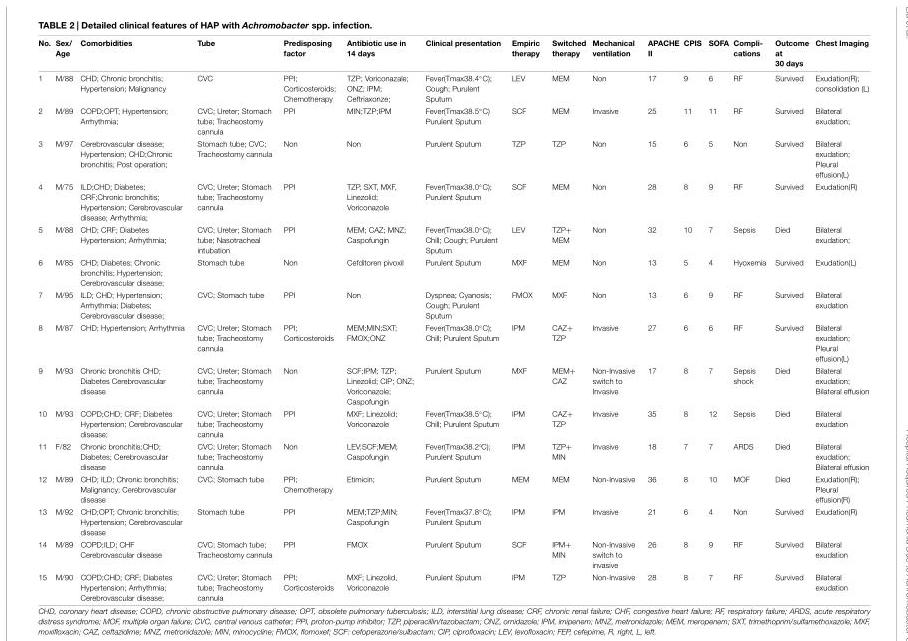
<table><thead><tr><td>No.</td><td>Sex/ Age</td><td>Comorbidities</td><td>Tube</td><td>Predisposing factor</td><td>Antibiotic use in 14 days</td><td>Clinical presentation</td><td>Empiric therapy</td><td>Switched therapy</td><td>Mechanical ventilation</td><td>APACHE II</td><td>CPIS</td><td>SOFA</td><td>Compli- cations</td><td>Outcome at 30 days</td><td>Chest Imaging</td></tr></thead><tbody><tr><td>1</td><td>M/88</td><td>CHD; Chronic bronchitis; Hypertension; Malignancy</td><td>CVC</td><td>PPI; Corticosteroids; Chemotherapy</td><td>TZP; Voriconazale; ONZ; IPM; Ceftriaxonze;</td><td>Fever(Tmax38.4◦C); Cough; Purulent Sputum</td><td>LEV</td><td>MEM</td><td>Non</td><td>17</td><td>9</td><td>6</td><td>RF</td><td>Survived</td><td>Exudation(R); consolidation (L)</td></tr><tr><td>2</td><td>M/89</td><td>COPD;OPT; Hypertension; Arrhythmia;</td><td>CVC; Ureter; Stomach tube; Tracheostomy cannula</td><td>PPI</td><td>MIN;TZP;IPM</td><td>Fever(Tmax38.5◦C) Purulent Sputum</td><td>SCF</td><td>MEM</td><td>Invasive</td><td>25</td><td>11</td><td>11</td><td>RF</td><td>Survived</td><td>Bilateral exudation;</td></tr><tr><td>3</td><td>M/97</td><td>Cerebrovascular disease; Hypertension; CHD;Chronic bronchitis; Post operation;</td><td>Stomach tube; CVC; Tracheostomy cannula</td><td>Non</td><td>Non</td><td>Purulent Sputum</td><td>TZP</td><td>TZP</td><td>Non</td><td>15</td><td>6</td><td>5</td><td>Non</td><td>Survived</td><td>Bilateral exudation; Pleural effusion(L)</td></tr><tr><td>4</td><td>M/75</td><td>ILD;CHD; Diabetes; CRF;Chronic bronchitis; Hypertension; Cerebrovascular disease; Arrhythmia;</td><td>CVC; Ureter; Stomach tube; Tracheostomy cannula</td><td>PPI</td><td>TZP, SXT, MXF, Linezolid; Voriconazole</td><td>Fever(Tmax38.0◦C); Purulent Sputum</td><td>SCF</td><td>MEM</td><td>Non</td><td>28</td><td>8</td><td>9</td><td>RF</td><td>Survived</td><td>Exudation(R)</td></tr><tr><td>5</td><td>M/88</td><td>CHD; CRF; Diabetes Hypertension; Arrhythmia;</td><td>CVC; Ureter; Stomach tube; Nasotracheal intubation</td><td>PPI</td><td>MEM; CAZ; MNZ; Caspofungin</td><td>Fever(Tmax38.0◦C); Chill; Cough; Purulent Sputum</td><td>LEV</td><td>TZP+ MEM</td><td>Non</td><td>32</td><td>10</td><td>7</td><td>Sepsis</td><td>Died</td><td>Bilateral exudation;</td></tr><tr><td>6</td><td>M/85</td><td>CHD; Diabetes; Chronic bronchitis; Hypertension; Cerebrovascular disease;</td><td>Stomach tube</td><td>Non</td><td>Cefditoren pivoxil</td><td>Purulent Sputum</td><td>MXF</td><td>MEM</td><td>Non</td><td>13</td><td>5</td><td>4</td><td>Hyoxemia</td><td>Survived</td><td>Exudation(L)</td></tr><tr><td>7</td><td>M/95</td><td>ILD; CHD; Hypertension; Arrhythmia; Diabetes; Cerebrovascular disease;</td><td>CVC; Stomach tube</td><td>PPI</td><td>Non</td><td>Dyspnea; Cyanosis; Cough; Purulent Sputum</td><td>FMOX</td><td>MXF</td><td>Non</td><td>13</td><td>6</td><td>9</td><td>RF</td><td>Survived</td><td>Bilateral exudation</td></tr><tr><td>8</td><td>M/87</td><td>CHD; Hypertension; Arrhythmia</td><td>CVC; Ureter; Stomach tube; Tracheostomy cannula</td><td>PPI; Corticosteroids</td><td>MEM;MIN;SXT; FMOX;ONZ</td><td>Fever(Tmax38.0◦C); Chill; Purulent Sputum</td><td>IPM</td><td>CAZ+ TZP</td><td>Invasive</td><td>27</td><td>6</td><td>6</td><td>RF</td><td>Survived</td><td>Bilateral exudation; Pleural effusion(L)</td></tr><tr><td>9</td><td>M/93</td><td>Chronic bronchitis CHD; Diabetes Cerebrovascular disease</td><td>CVC; Ureter; Stomach tube; Tracheostomy cannula</td><td>Non</td><td>SCF;IPM; TZP; Linezolid; CIP; ONZ; Voriconazole; Caspofungin</td><td>Purulent Sputum</td><td>MXF</td><td>MEM+ CAZ</td><td>Non-Invasive switch to Invasive</td><td>17</td><td>8</td><td>7</td><td>Sepsis shock</td><td>Died</td><td>Bilateral exudation; Bilateral effusion</td></tr><tr><td>10</td><td>M/93</td><td>COPD;CHD; CRF; Diabetes Hypertension; Cerebrovascular disease;</td><td>CVC; Ureter; Stomach tube; Tracheostomy cannula</td><td>PPI</td><td>MXF; Linezolid; Voriconazole</td><td>Fever(Tmax38.5◦C); Chill; Purulent Sputum</td><td>IPM</td><td>CAZ+ TZP</td><td>Invasive</td><td>35</td><td>8</td><td>12</td><td>Sepsis</td><td>Died</td><td>Bilateral exudation</td></tr><tr><td>11</td><td>F/82</td><td>Chronic bronchitis;CHD; Diabetes; Cerebrovascular disease</td><td>CVC; Ureter; Stomach tube; Tracheostomy cannula</td><td>Non</td><td>LEV;SCF;MEM; Caspofungin</td><td>Fever(Tmax38.2◦C); Purulent Sputum</td><td>IPM</td><td>TZP+ MIN</td><td>Invasive</td><td>18</td><td>7</td><td>7</td><td>ARDS</td><td>Died</td><td>Bilateral exudation; Bilateral effusion</td></tr><tr><td>12</td><td>M/89</td><td>CHD; ILD; Chronic bronchitis; Malignancy; Cerebrovascular disease</td><td>CVC; Stomach tube</td><td>PPI; Chemotherapy</td><td>Etimicin;</td><td>Purulent Sputum</td><td>MEM</td><td>MEM</td><td>Non-Invasive</td><td>36</td><td>8</td><td>10</td><td>MOF</td><td>Died</td><td>Exudation(R); Pleural effusion(R)</td></tr><tr><td>13</td><td>M/92</td><td>CHD;OPT; Chronic bronchitis; Hypertension; Cerebrovascular disease</td><td>Stomach tube</td><td>PPI</td><td>MEM;TZP;MIN; Caspofungin</td><td>Fever(Tmax37.8◦C); Purulent Sputum</td><td>IPM</td><td>IPM</td><td>Invasive</td><td>21</td><td>6</td><td>4</td><td>Non</td><td>Survived</td><td>Exudation(R)</td></tr><tr><td>14</td><td>M/89</td><td>COPD;ILD; CHF Cerebrovascular disease</td><td>CVC; Stomach tube; Tracheostomy cannula</td><td>PPI</td><td>FMOX</td><td>Purulent Sputum</td><td>SCF</td><td>IPM+ MIN</td><td>Non-Invasive switch to invasive</td><td>26</td><td>8</td><td>9</td><td>RF</td><td>Survived</td><td>Bilateral exudation</td></tr><tr><td>15</td><td>M/90</td><td>COPD;CHD; CRF; Diabetes Hypertension; Arrhythmia; Cerebrovascular disease;</td><td>CVC; Ureter; Stomach tube; Tracheostomy cannula</td><td>PPI; Corticosteroids</td><td>MXF; Linezolid, Voriconazole</td><td>Purulent Sputum</td><td>IPM</td><td>TZP</td><td>Non-Invasive</td><td>28</td><td>8</td><td>7</td><td>RF</td><td>Survived</td><td>Bilateral exudation</td></tr></tbody></table>